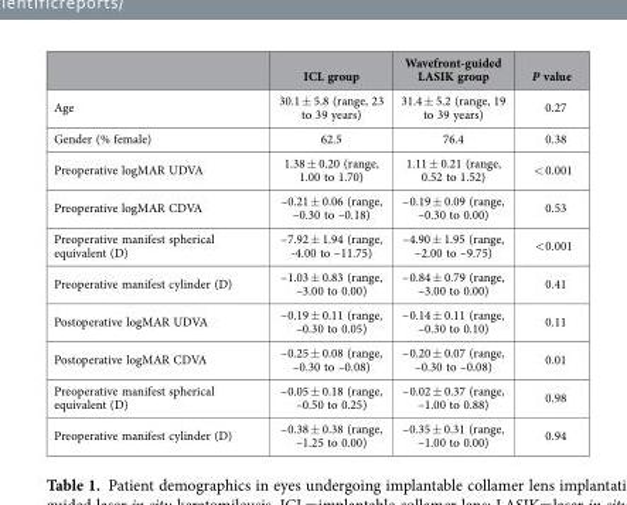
<table><thead><tr><td></td><td>ICL group</td><td>Wavefront-guided LASIK group</td><td>P value</td></tr></thead><tbody><tr><td>Age</td><td>30.1 ± 5.8 (range, 23 to 39 years)</td><td>31.4 ± 5.2 (range, 19 to 39 years)</td><td>0.27</td></tr><tr><td>Gender (% female)</td><td>62.5</td><td>76.4</td><td>0.38</td></tr><tr><td>Preoperative logMAR UDVA</td><td>1.38 ± 0.20 (range, 1.00 to 1.70)</td><td>1.11 ± 0.21 (range, 0.52 to 1.52)</td><td>&lt; 0.001</td></tr><tr><td>Preoperative logMAR CDVA</td><td>–0.21 ± 0.06 (range, –0.30 to –0.18)</td><td>– 0.19 ± 0.09 (range, –0.30 to 0.00)</td><td>0.53</td></tr><tr><td>Preoperative manifest spherical equivalent (D)</td><td>– 7.92 ± 1.94 (range, -4.00 to –11.75)</td><td>–4.90 ± 1.95 (range, –2.00 to –9.75)</td><td>&lt; 0.001</td></tr><tr><td>Preoperative manifest cylinder (D)</td><td>– 1.03 ± 0.83 (range, –3.00 to 0.00)</td><td>– 0.84 ± 0.79 (range, –3.00 to 0.00)</td><td>0.41</td></tr><tr><td>Postoperative logMAR UDVA</td><td>– 0.19 ± 0.11 (range, –0.30 to 0.05)</td><td>– 0.14 ± 0.11 (range, –0.30 to 0.10)</td><td>0.11</td></tr><tr><td>Postoperative logMAR CDVA</td><td>– 0.25 ± 0.08 (range, –0.30 to –0.08)</td><td>– 0.20 ± 0.07 (range, –0.30 to –0.08)</td><td>0.01</td></tr><tr><td>Preoperative manifest spherical equivalent (D)</td><td>– 0.05 ± 0.18 (range, –0.50 to 0.25)</td><td>– 0.02 ± 0.37 (range, –1.00 to 0.88)</td><td>0.98</td></tr><tr><td>Preoperative manifest cylinder (D)</td><td>– 0.38 ± 0.38 (range, –1.25 to 0.00)</td><td>–0.35 ± 0.31 (range, –1.00 to 0.00)</td><td>0.94</td></tr></tbody></table>